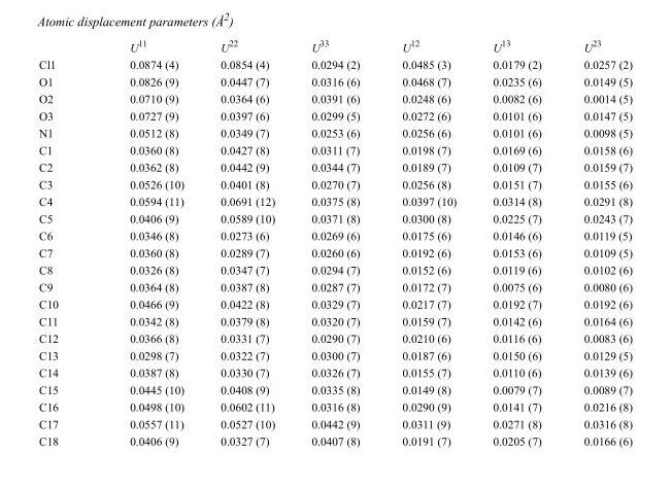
<table><thead><tr><td></td><td>U<sup>11</sup></td><td>U<sup>22</sup></td><td>U<sup>33</sup></td><td>U<sup>12</sup></td><td>U<sup>13</sup></td><td>U<sup>23</sup></td></tr></thead><tbody><tr><td>Cl1</td><td>0.0874 (4)</td><td>0.0854 (4)</td><td>0.0294 (2)</td><td>0.0485 (3)</td><td>0.0179 (2)</td><td>0.0257 (2)</td></tr><tr><td>O1</td><td>0.0826 (9)</td><td>0.0447 (7)</td><td>0.0316 (6)</td><td>0.0468 (7)</td><td>0.0235 (6)</td><td>0.0149 (5)</td></tr><tr><td>O2</td><td>0.0710 (9)</td><td>0.0364 (6)</td><td>0.0391 (6)</td><td>0.0248 (6)</td><td>0.0082 (6)</td><td>0.0014 (5)</td></tr><tr><td>O3</td><td>0.0727 (9)</td><td>0.0397 (6)</td><td>0.0299 (5)</td><td>0.0272 (6)</td><td>0.0101 (6)</td><td>0.0147 (5)</td></tr><tr><td>N1</td><td>0.0512 (8)</td><td>0.0349 (7)</td><td>0.0253 (6)</td><td>0.0256 (6)</td><td>0.0101 (6)</td><td>0.0098 (5)</td></tr><tr><td>C1</td><td>0.0360 (8)</td><td>0.0427 (8)</td><td>0.0311 (7)</td><td>0.0198 (7)</td><td>0.0169 (6)</td><td>0.0158 (6)</td></tr><tr><td>C2</td><td>0.0362 (8)</td><td>0.0442 (9)</td><td>0.0344 (7)</td><td>0.0189 (7)</td><td>0.0109 (7)</td><td>0.0159 (7)</td></tr><tr><td>C3</td><td>0.0526 (10)</td><td>0.0401 (8)</td><td>0.0270 (7)</td><td>0.0256 (8)</td><td>0.0151 (7)</td><td>0.0155 (6)</td></tr><tr><td>C4</td><td>0.0594 (11)</td><td>0.0691 (12)</td><td>0.0375 (8)</td><td>0.0397 (10)</td><td>0.0314 (8)</td><td>0.0291 (8)</td></tr><tr><td>C5</td><td>0.0406 (9)</td><td>0.0589 (10)</td><td>0.0371 (8)</td><td>0.0300 (8)</td><td>0.0225 (7)</td><td>0.0243 (7)</td></tr><tr><td>C6</td><td>0.0346 (8)</td><td>0.0273 (6)</td><td>0.0269 (6)</td><td>0.0175 (6)</td><td>0.0146 (6)</td><td>0.0119 (5)</td></tr><tr><td>C7</td><td>0.0360 (8)</td><td>0.0289 (7)</td><td>0.0260 (6)</td><td>0.0192 (6)</td><td>0.0153 (6)</td><td>0.0109 (5)</td></tr><tr><td>C8</td><td>0.0326 (8)</td><td>0.0347 (7)</td><td>0.0294 (7)</td><td>0.0152 (6)</td><td>0.0119 (6)</td><td>0.0102 (6)</td></tr><tr><td>C9</td><td>0.0364 (8)</td><td>0.0387 (8)</td><td>0.0287 (7)</td><td>0.0172 (7)</td><td>0.0075 (6)</td><td>0.0080 (6)</td></tr><tr><td>C10</td><td>0.0466 (9)</td><td>0.0422 (8)</td><td>0.0329 (7)</td><td>0.0217 (7)</td><td>0.0192 (7)</td><td>0.0192 (6)</td></tr><tr><td>C11</td><td>0.0342 (8)</td><td>0.0379 (8)</td><td>0.0320 (7)</td><td>0.0159 (7)</td><td>0.0142 (6)</td><td>0.0164 (6)</td></tr><tr><td>C12</td><td>0.0366 (8)</td><td>0.0331 (7)</td><td>0.0290 (7)</td><td>0.0210 (6)</td><td>0.0116 (6)</td><td>0.0083 (6)</td></tr><tr><td>C13</td><td>0.0298 (7)</td><td>0.0322 (7)</td><td>0.0300 (7)</td><td>0.0187 (6)</td><td>0.0150 (6)</td><td>0.0129 (5)</td></tr><tr><td>C14</td><td>0.0387 (8)</td><td>0.0330 (7)</td><td>0.0326 (7)</td><td>0.0155 (7)</td><td>0.0110 (6)</td><td>0.0139 (6)</td></tr><tr><td>C15</td><td>0.0445 (10)</td><td>0.0408 (9)</td><td>0.0335 (8)</td><td>0.0149 (8)</td><td>0.0079 (7)</td><td>0.0089 (7)</td></tr><tr><td>C16</td><td>0.0498 (10)</td><td>0.0602 (11)</td><td>0.0316 (8)</td><td>0.0290 (9)</td><td>0.0141 (7)</td><td>0.0216 (8)</td></tr><tr><td>C17</td><td>0.0557 (11)</td><td>0.0527 (10)</td><td>0.0442 (9)</td><td>0.0311 (9)</td><td>0.0271 (8)</td><td>0.0316 (8)</td></tr><tr><td>C18</td><td>0.0406 (9)</td><td>0.0327 (7)</td><td>0.0407 (8)</td><td>0.0191 (7)</td><td>0.0205 (7)</td><td>0.0166 (6)</td></tr></tbody></table>